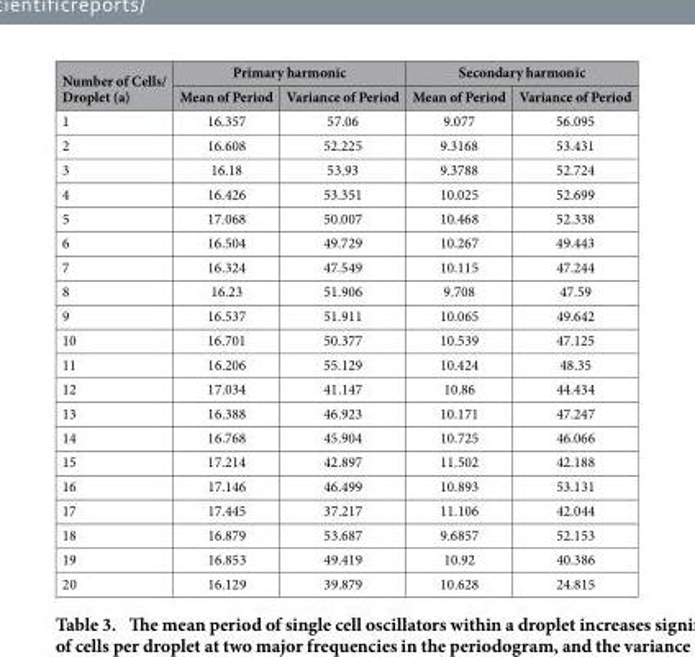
<table><thead><tr><td rowspan="2">Number of Cells/ Droplet (a)</td><td colspan="2">Primary harmonic</td><td colspan="2">Secondary harmonic</td></tr><tr><td>Mean of Period</td><td>Variance of Period</td><td>Mean of Period</td><td>Variance of Period</td></tr></thead><tbody><tr><td>1</td><td>16.357</td><td>57.06</td><td>9.077</td><td>56.095</td></tr><tr><td>2</td><td>16.608</td><td>52.225</td><td>9.3168</td><td>53.431</td></tr><tr><td>3</td><td>16.18</td><td>53.93</td><td>9.3788</td><td>52.724</td></tr><tr><td>4</td><td>16.426</td><td>53.351</td><td>10.025</td><td>52.699</td></tr><tr><td>5</td><td>17.068</td><td>50.007</td><td>10.468</td><td>52.338</td></tr><tr><td>6</td><td>16.504</td><td>49.729</td><td>10.267</td><td>49.443</td></tr><tr><td>7</td><td>16.324</td><td>47.549</td><td>10.115</td><td>47.244</td></tr><tr><td>8</td><td>16.23</td><td>51.906</td><td>9.708</td><td>47.59</td></tr><tr><td>9</td><td>16.537</td><td>51.911</td><td>10.065</td><td>49.642</td></tr><tr><td>10</td><td>16.701</td><td>50.377</td><td>10.539</td><td>47.125</td></tr><tr><td>11</td><td>16.206</td><td>55.129</td><td>10.424</td><td>48.35</td></tr><tr><td>12</td><td>17.034</td><td>41.147</td><td>10.86</td><td>44.434</td></tr><tr><td>13</td><td>16.388</td><td>46.923</td><td>10.171</td><td>47.247</td></tr><tr><td>14</td><td>16.768</td><td>45.904</td><td>10.725</td><td>46.066</td></tr><tr><td>15</td><td>17.214</td><td>42.897</td><td>11.502</td><td>42.188</td></tr><tr><td>16</td><td>17.146</td><td>46.499</td><td>10.893</td><td>53.131</td></tr><tr><td>17</td><td>17.445</td><td>37.217</td><td>11.106</td><td>42.044</td></tr><tr><td>18</td><td>16.879</td><td>53.687</td><td>9.6857</td><td>52.153</td></tr><tr><td>19</td><td>16.853</td><td>49.419</td><td>10.92</td><td>40.386</td></tr><tr><td>20</td><td>16.129</td><td>39.879</td><td>10.628</td><td>24.815</td></tr></tbody></table>